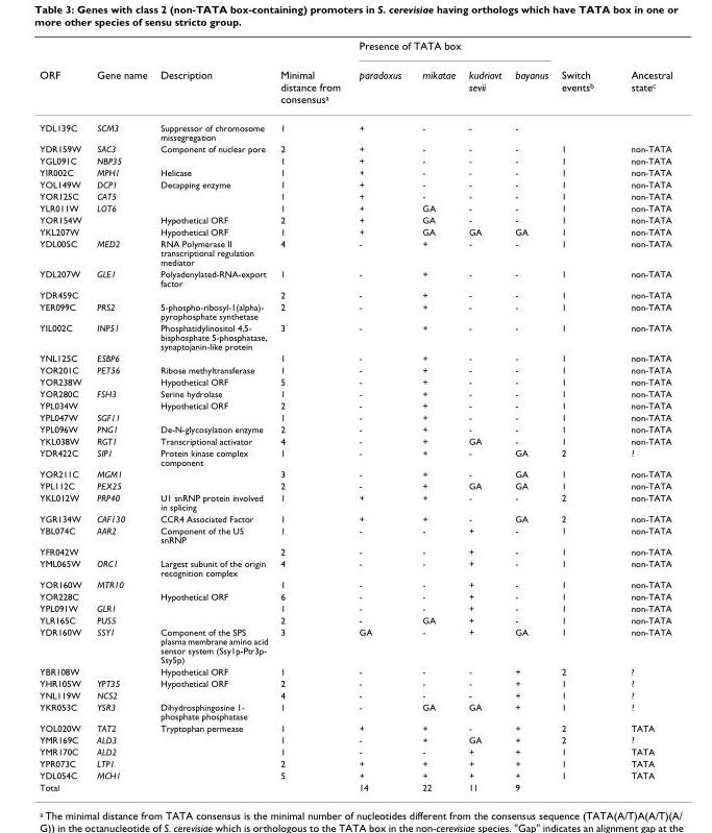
<table><thead><tr><td rowspan="2">ORF</td><td rowspan="2">Gene name</td><td rowspan="2">Description</td><td rowspan="2">Minimal distance from consensus<sup>a</sup></td><td colspan="4">Presence of TATA box</td><td rowspan="2">Switch events<sup>b</sup></td><td rowspan="2">Ancestral state<sup>c</sup></td></tr><tr><td>paradoxus</td><td>mikatae</td><td>kudriavt sevii</td><td>bayanus</td></tr></thead><tbody><tr><td>YDL139C</td><td>SCM3</td><td>Suppressor of chromosome missegregation</td><td>1</td><td>+</td><td>-</td><td>-</td><td>-</td><td></td><td></td></tr><tr><td>YDR159W</td><td>SAC3</td><td>Component of nuclear pore</td><td>2</td><td>+</td><td>-</td><td>-</td><td>-</td><td>1</td><td>non-TATA</td></tr><tr><td>YGL091C</td><td>NBP35</td><td></td><td>1</td><td>+</td><td>-</td><td>-</td><td>-</td><td>1</td><td>non-TATA</td></tr><tr><td>YIR002C</td><td>MPH1</td><td>Helicase</td><td>1</td><td>+</td><td>-</td><td>-</td><td>-</td><td>1</td><td>non-TATA</td></tr><tr><td>YOL149W</td><td>DCP1</td><td>Decapping enzyme</td><td>1</td><td>+</td><td>-</td><td>-</td><td>-</td><td>1</td><td>non-TATA</td></tr><tr><td>YOR125C</td><td>CAT5</td><td></td><td>1</td><td>+</td><td>-</td><td>-</td><td>-</td><td>1</td><td>non-TATA</td></tr><tr><td>YLR011W</td><td>LOT6</td><td></td><td>1</td><td>+</td><td>GA</td><td>-</td><td>-</td><td>1</td><td>non-TATA</td></tr><tr><td>YOR154W</td><td></td><td>Hypothetical ORF</td><td>2</td><td>+</td><td>GA</td><td>-</td><td>-</td><td>1</td><td>non-TATA</td></tr><tr><td>YKL207W</td><td></td><td>Hypothetical ORF</td><td>1</td><td>+</td><td>GA</td><td>GA</td><td>GA</td><td>1</td><td>non-TATA</td></tr><tr><td>YDL005C</td><td>MED2</td><td>RNA Polymerase II transcriptional regulation mediator</td><td>4</td><td>-</td><td>+</td><td>-</td><td>-</td><td>1</td><td>non-TATA</td></tr><tr><td>YDL207W</td><td>GLE1</td><td>Polyadenylated-RNA-export factor</td><td>1</td><td>-</td><td>+</td><td>-</td><td>-</td><td>1</td><td>non-TATA</td></tr><tr><td>YDR459C</td><td></td><td></td><td>2</td><td>-</td><td>+</td><td>-</td><td>-</td><td>1</td><td>non-TATA</td></tr><tr><td>YER099C</td><td>PRS2</td><td>5-phospho-ribosyl-1(alpha)- pyrophosphate synthetase</td><td>2</td><td>-</td><td>+</td><td>-</td><td>-</td><td>1</td><td>non-TATA</td></tr><tr><td>YIL002C</td><td>INP51</td><td>Phosphatidylinositol 4,5- bisphosphate 5-phosphatase, synaptojanin-like protein</td><td>3</td><td>-</td><td>+</td><td>-</td><td>-</td><td>1</td><td>non-TATA</td></tr><tr><td>YNL125C</td><td>ESBP6</td><td></td><td>1</td><td>-</td><td>+</td><td>-</td><td>-</td><td>1</td><td>non-TATA</td></tr><tr><td>YOR201C</td><td>PET56</td><td>Ribose methyltransferase</td><td>1</td><td>-</td><td>+</td><td>-</td><td>-</td><td>1</td><td>non-TATA</td></tr><tr><td>YOR238W</td><td></td><td>Hypothetical ORF</td><td>5</td><td>-</td><td>+</td><td>-</td><td>-</td><td>1</td><td>non-TATA</td></tr><tr><td>YOR280C</td><td>FSH3</td><td>Serine hydrolase</td><td>1</td><td>-</td><td>+</td><td>-</td><td>-</td><td>1</td><td>non-TATA</td></tr><tr><td>YPL034W</td><td></td><td>Hypothetical ORF</td><td>2</td><td>-</td><td>+</td><td>-</td><td>-</td><td>1</td><td>non-TATA</td></tr><tr><td>YPL047W</td><td>SGF11</td><td></td><td>1</td><td>-</td><td>+</td><td>-</td><td>-</td><td>1</td><td>non-TATA</td></tr><tr><td>YPL096W</td><td>PNG1</td><td>De-N-glycosylation enzyme</td><td>2</td><td>-</td><td>+</td><td>-</td><td>-</td><td>1</td><td>non-TATA</td></tr><tr><td>YKL038W</td><td>RGT1</td><td>Transcriptional activator</td><td>4</td><td>-</td><td>+</td><td>GA</td><td>-</td><td>1</td><td>non-TATA</td></tr><tr><td>YDR422C</td><td>SIP1</td><td>Protein kinase complex component</td><td>1</td><td>-</td><td>+</td><td>-</td><td>GA</td><td>2</td><td>?</td></tr><tr><td>YOR211C</td><td>MGM1</td><td></td><td>3</td><td>-</td><td>+</td><td>-</td><td>GA</td><td>1</td><td>non-TATA</td></tr><tr><td>YPL112C</td><td>PEX25</td><td></td><td>2</td><td>-</td><td>+</td><td>GA</td><td>GA</td><td>1</td><td>non-TATA</td></tr><tr><td>YKL012W</td><td>PRP40</td><td>U1 snRNP protein involved in splicing</td><td>1</td><td>+</td><td>+</td><td>-</td><td>-</td><td>2</td><td>non-TATA</td></tr><tr><td>YGR134W</td><td>CAF130</td><td>CCR4 Associated Factor</td><td>1</td><td>+</td><td>+</td><td>-</td><td>GA</td><td>2</td><td>non-TATA</td></tr><tr><td>YBL074C</td><td>AAR2</td><td>Component of the U5 snRNP</td><td>1</td><td>-</td><td>-</td><td>+</td><td>-</td><td>1</td><td>non-TATA</td></tr><tr><td>YFR042W</td><td></td><td></td><td>2</td><td>-</td><td>-</td><td>+</td><td>-</td><td>1</td><td>non-TATA</td></tr><tr><td>YML065W</td><td>ORC1</td><td>Largest subunit of the origin recognition complex</td><td>4</td><td>-</td><td>-</td><td>+</td><td>-</td><td>1</td><td>non-TATA</td></tr><tr><td>YOR160W</td><td>MTR10</td><td></td><td>1</td><td>-</td><td>-</td><td>+</td><td>-</td><td>1</td><td>non-TATA</td></tr><tr><td>YOR228C</td><td></td><td>Hypothetical ORF</td><td>6</td><td>-</td><td>-</td><td>+</td><td>-</td><td>1</td><td>non-TATA</td></tr><tr><td>YPL091W</td><td>GLR1</td><td></td><td>1</td><td>-</td><td>-</td><td>+</td><td>-</td><td>1</td><td>non-TATA</td></tr><tr><td>YLR165C</td><td>PUS5</td><td></td><td>2</td><td>-</td><td>GA</td><td>+</td><td>-</td><td>1</td><td>non-TATA</td></tr><tr><td>YDR160W</td><td>SSY1</td><td>Component of the SPS plasma membrane amino acid sensor system (Ssy1p-Ptr3p- Ssy5p)</td><td>3</td><td>GA</td><td>-</td><td>+</td><td>GA</td><td>1</td><td>non-TATA</td></tr><tr><td>YBR108W</td><td></td><td>Hypothetical ORF</td><td>1</td><td>-</td><td>-</td><td>-</td><td>+</td><td>2</td><td>?</td></tr><tr><td>YHR105W</td><td>YPT35</td><td>Hypothetical ORF</td><td>2</td><td>-</td><td>-</td><td>-</td><td>+</td><td>1</td><td>?</td></tr><tr><td>YNL119W</td><td>NCS2</td><td></td><td>4</td><td>-</td><td>-</td><td>-</td><td>+</td><td>1</td><td>?</td></tr><tr><td>YKR053C</td><td>YSR3</td><td>Dihydrosphingosine 1- phosphate phosphatase</td><td>1</td><td>-</td><td>GA</td><td>GA</td><td>+</td><td>1</td><td>?</td></tr><tr><td>YOL020W</td><td>TAT2</td><td>Tryptophan permease</td><td>1</td><td>+</td><td>+</td><td>-</td><td>+</td><td>2</td><td>TATA</td></tr><tr><td>YMR169C</td><td>ALD3</td><td></td><td>1</td><td>-</td><td>+</td><td>GA</td><td>+</td><td>2</td><td>?</td></tr><tr><td>YMR170C</td><td>ALD2</td><td></td><td>1</td><td>-</td><td>-</td><td>+</td><td>+</td><td>1</td><td>TATA</td></tr><tr><td>YPR073C</td><td>LTP1</td><td></td><td>2</td><td>+</td><td>+</td><td>+</td><td>+</td><td>1</td><td>TATA</td></tr><tr><td>YDL054C</td><td>MCH1</td><td></td><td>5</td><td>+</td><td>+</td><td>+</td><td>+</td><td>1</td><td>TATA</td></tr><tr><td>Total</td><td></td><td></td><td></td><td>14</td><td>22</td><td>11</td><td>9</td><td></td><td></td></tr></tbody></table>